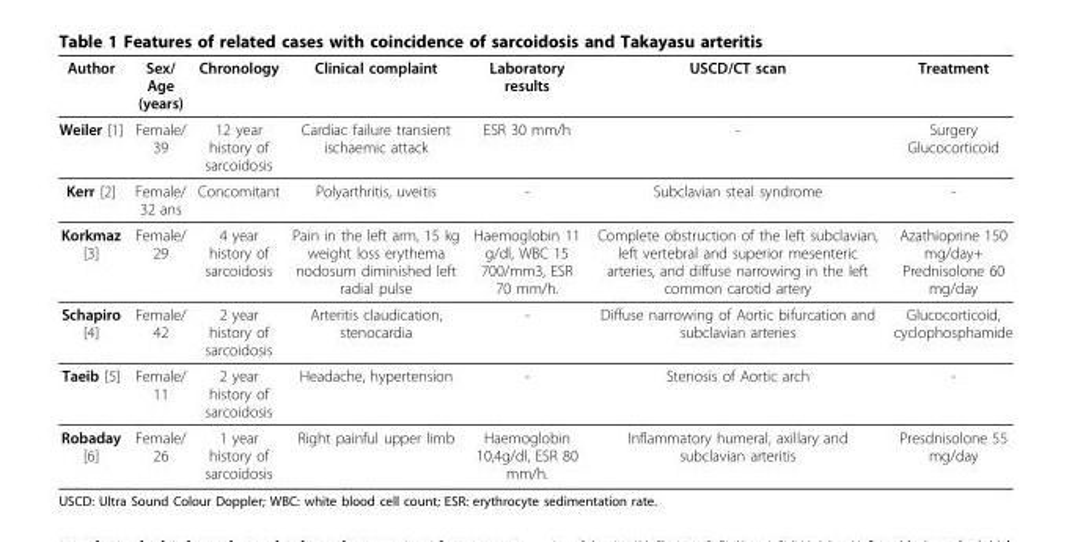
<table><thead><tr><td>Author</td><td>Sex/ Age (years)</td><td>Chronology</td><td>Clinical complaint</td><td>Laboratory results</td><td>USCD/CT scan</td><td>Treatment</td></tr></thead><tbody><tr><td>Weiler [1]</td><td>Female/ 39</td><td>12 year history of sarcoidosis</td><td>Cardiac failure transient ischaemic attack</td><td>ESR 30 mm/h</td><td>-</td><td>Surgery Glucocorticoid</td></tr><tr><td>Kerr [2]</td><td>Female/ 32 ans</td><td>Concomitant</td><td>Polyarthritis, uveitis</td><td>-</td><td>Subclavian steal syndrome</td><td>-</td></tr><tr><td>Korkmaz [3]</td><td>Female/ 29</td><td>4 year history of sarcoidosis</td><td>Pain in the left arm, 15 kg weight loss erythema nodosum diminished left radial pulse</td><td>Haemoglobin 11 g/dl, WBC 15 700/mm3, ESR 70 mm/h.</td><td>Complete obstruction of the left subclavian, left vertebral and superior mesenteric arteries, and diffuse narrowing in the left common carotid artery</td><td>Azathioprine 150 mg/day+ Prednisolone 60 mg/day</td></tr><tr><td>Schapiro [4]</td><td>Female/ 42</td><td>2 year history of sarcoidosis</td><td>Arteritis claudication, stenocardia</td><td>-</td><td>Diffuse narrowing of Aortic bifurcation and subclavian arteries</td><td>Glucocorticoid, cyclophosphamide</td></tr><tr><td>Taeib [5]</td><td>Female/ 11</td><td>2 year history of sarcoidosis</td><td>Headache, hypertension</td><td>-</td><td>Stenosis of Aortic arch</td><td>-</td></tr><tr><td>Robaday [6]</td><td>Female/ 26</td><td>1 year history of sarcoidosis</td><td>Right painful upper limb</td><td>Haemoglobin 10,4g/dl, ESR 80 mm/h.</td><td>Inflammatory humeral, axillary and subclavian arteritis</td><td>Presdnisolone 55 mg/day</td></tr></tbody></table>